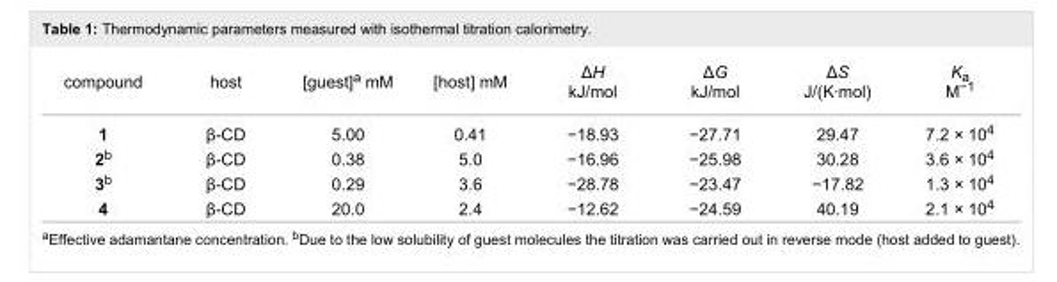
<table><tbody><tr><td>compound</td><td>host</td><td>[guest]<sup>a</sup> mM</td><td>[host] mM</td><td>ΔH kJ/mol</td><td>ΔG kJ/mol</td><td>ΔS J/(K·mol)</td><td>K<sub>a</sub> M<sup>−1</sup></td></tr><tr><td>1</td><td>β-CD</td><td>5.00</td><td>0.41</td><td>−18.93</td><td>−27.71</td><td>29.47</td><td>7.2 × 10<sup>4</sup></td></tr><tr><td>2<sup>b</sup></td><td>β-CD</td><td>0.38</td><td>5.0</td><td>−16.96</td><td>−25.98</td><td>30.28</td><td>3.6 × 10<sup>4</sup></td></tr><tr><td>3<sup>b</sup></td><td>β-CD</td><td>0.29</td><td>3.6</td><td>−28.78</td><td>−23.47</td><td>−17.82</td><td>1.3 × 10<sup>4</sup></td></tr><tr><td>4</td><td>β-CD</td><td>20.0</td><td>2.4</td><td>−12.62</td><td>−24.59</td><td>40.19</td><td>2.1 × 10<sup>4</sup></td></tr></tbody></table>